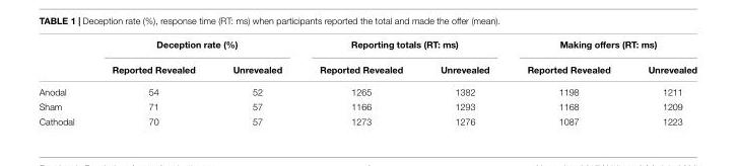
<table><thead><tr><td rowspan="2"></td><td colspan="2">Deception rate (%)</td><td colspan="2">Reporting totals (RT: ms)</td><td colspan="2">Making offers (RT: ms)</td></tr><tr><td>Reported Revealed</td><td>Unrevealed</td><td>Reported Revealed</td><td>Unrevealed</td><td>Reported Revealed</td><td>Unrevealed</td></tr></thead><tbody><tr><td>Anodal</td><td>54</td><td>52</td><td>1265</td><td>1382</td><td>1198</td><td>1211</td></tr><tr><td>Sham</td><td>71</td><td>57</td><td>1166</td><td>1293</td><td>1168</td><td>1209</td></tr><tr><td>Cathodal</td><td>70</td><td>57</td><td>1273</td><td>1276</td><td>1087</td><td>1223</td></tr></tbody></table>